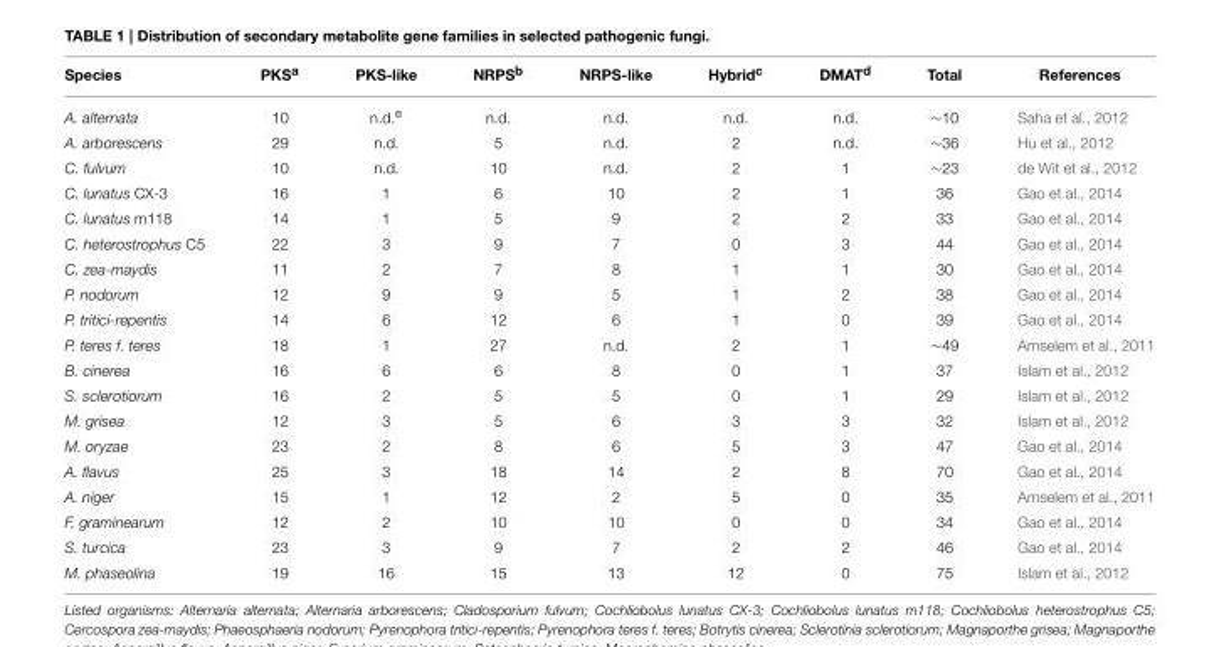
<table><thead><tr><td>Species</td><td>PKS<sup>a</sup></td><td>PKS-like</td><td>NRPS<sup>b</sup></td><td>NRPS-like</td><td>Hybrid<sup>c</sup></td><td>DMAT<sup>d</sup></td><td>Total</td><td>References</td></tr></thead><tbody><tr><td>A. alternata</td><td>10</td><td>n.d.<sup>e</sup></td><td>n.d.</td><td>n.d.</td><td>n.d.</td><td>n.d.</td><td>∼10</td><td>Saha et al., 2012</td></tr><tr><td>A. arborescens</td><td>29</td><td>n.d.</td><td>5</td><td>n.d.</td><td>2</td><td>n.d.</td><td>∼36</td><td>Hu et al., 2012</td></tr><tr><td>C. fulvum</td><td>10</td><td>n.d.</td><td>10</td><td>n.d.</td><td>2</td><td>1</td><td>∼23</td><td>de Wit et al., 2012</td></tr><tr><td>C. lunatus CX-3</td><td>16</td><td>1</td><td>6</td><td>10</td><td>2</td><td>1</td><td>36</td><td>Gao et al., 2014</td></tr><tr><td>C. lunatus m118</td><td>14</td><td>1</td><td>5</td><td>9</td><td>2</td><td>2</td><td>33</td><td>Gao et al., 2014</td></tr><tr><td>C. heterostrophus C5</td><td>22</td><td>3</td><td>9</td><td>7</td><td>0</td><td>3</td><td>44</td><td>Gao et al., 2014</td></tr><tr><td>C. zea-maydis</td><td>11</td><td>2</td><td>7</td><td>8</td><td>1</td><td>1</td><td>30</td><td>Gao et al., 2014</td></tr><tr><td>P. nodorum</td><td>12</td><td>9</td><td>9</td><td>5</td><td>1</td><td>2</td><td>38</td><td>Gao et al., 2014</td></tr><tr><td>P. tritici-repentis</td><td>14</td><td>6</td><td>12</td><td>6</td><td>1</td><td>0</td><td>39</td><td>Gao et al., 2014</td></tr><tr><td>P. teres f. teres</td><td>18</td><td>1</td><td>27</td><td>n.d.</td><td>2</td><td>1</td><td>∼49</td><td>Amselem et al., 2011</td></tr><tr><td>B. cinerea</td><td>16</td><td>6</td><td>6</td><td>8</td><td>0</td><td>1</td><td>37</td><td>Islam et al., 2012</td></tr><tr><td>S. sclerotiorum</td><td>16</td><td>2</td><td>5</td><td>5</td><td>0</td><td>1</td><td>29</td><td>Islam et al., 2012</td></tr><tr><td>M. grisea</td><td>12</td><td>3</td><td>5</td><td>6</td><td>3</td><td>3</td><td>32</td><td>Islam et al., 2012</td></tr><tr><td>M. oryzae</td><td>23</td><td>2</td><td>8</td><td>6</td><td>5</td><td>3</td><td>47</td><td>Gao et al., 2014</td></tr><tr><td>A. flavus</td><td>25</td><td>3</td><td>18</td><td>14</td><td>2</td><td>8</td><td>70</td><td>Gao et al., 2014</td></tr><tr><td>A. niger</td><td>15</td><td>1</td><td>12</td><td>2</td><td>5</td><td>0</td><td>35</td><td>Amselem et al., 2011</td></tr><tr><td>F. graminearum</td><td>12</td><td>2</td><td>10</td><td>10</td><td>0</td><td>0</td><td>34</td><td>Gao et al., 2014</td></tr><tr><td>S. turcica</td><td>23</td><td>3</td><td>9</td><td>7</td><td>2</td><td>2</td><td>46</td><td>Gao et al., 2014</td></tr><tr><td>M. phaseolina</td><td>19</td><td>16</td><td>15</td><td>13</td><td>12</td><td>0</td><td>75</td><td>Islam et al., 2012</td></tr></tbody></table>